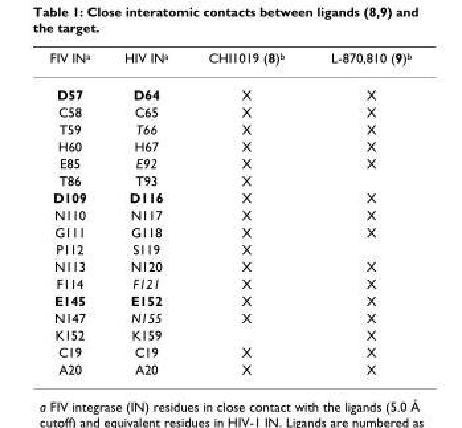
<table><thead><tr><td>FIV IN<sup>a</sup></td><td>HIV IN<sup>a</sup></td><td>CHI1019 (8)<sup>b</sup></td><td>L-870,810 (9)<sup>b</sup></td></tr></thead><tbody><tr><td>D57</td><td>D64</td><td>X</td><td>X</td></tr><tr><td>C58</td><td>C65</td><td>X</td><td>X</td></tr><tr><td>T59</td><td>T66</td><td>X</td><td>X</td></tr><tr><td>H60</td><td>H67</td><td>X</td><td>X</td></tr><tr><td>E85</td><td>E92</td><td>X</td><td>X</td></tr><tr><td>T86</td><td>T93</td><td>X</td><td></td></tr><tr><td>D109</td><td>D116</td><td>X</td><td>X</td></tr><tr><td>N110</td><td>N117</td><td>X</td><td>X</td></tr><tr><td>G111</td><td>G118</td><td>X</td><td>X</td></tr><tr><td>P112</td><td>S119</td><td>X</td><td></td></tr><tr><td>N113</td><td>N120</td><td>X</td><td>X</td></tr><tr><td>F114</td><td>F121</td><td>X</td><td>X</td></tr><tr><td>E145</td><td>E152</td><td>X</td><td>X</td></tr><tr><td>N147</td><td>N155</td><td>X</td><td>X</td></tr><tr><td>K152</td><td>K159</td><td></td><td>X</td></tr><tr><td>C19</td><td>C19</td><td>X</td><td>X</td></tr><tr><td>A20</td><td>A20</td><td>X</td><td>X</td></tr></tbody></table>